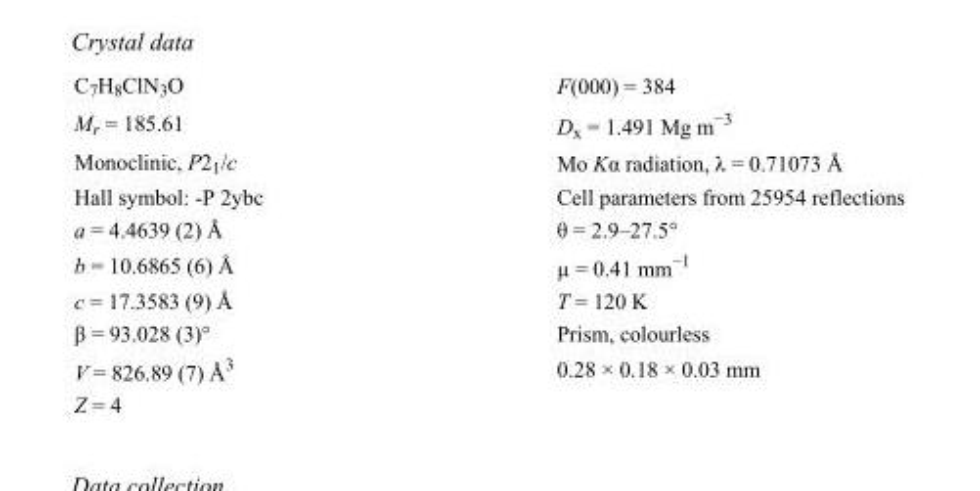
<table><tbody><tr><td>C<sub>7</sub>H<sub>8</sub>ClN<sub>3</sub>O</td><td>F(000) = 384</td></tr><tr><td>M<sub>r</sub> = 185.61</td><td>D<sub>x</sub> = 1.491 Mg m<sup>−3</sup></td></tr><tr><td>Monoclinic, P2<sub>1</sub>/c</td><td>Mo Kα radiation, λ = 0.71073 Å</td></tr><tr><td>Hall symbol: -P 2ybc</td><td>Cell parameters from 25954 reflections</td></tr><tr><td>a = 4.4639 (2) Å</td><td>θ = 2.9–27.5°</td></tr><tr><td>b = 10.6865 (6) Å</td><td>µ = 0.41 mm<sup>−1</sup></td></tr><tr><td>c = 17.3583 (9) Å</td><td>T = 120 K</td></tr><tr><td>β = 93.028 (3)°</td><td>Prism, colourless</td></tr><tr><td>V = 826.89 (7) Å<sup>3</sup></td><td>0.28 × 0.18 × 0.03 mm</td></tr><tr><td>Z = 4</td><td></td></tr></tbody></table>